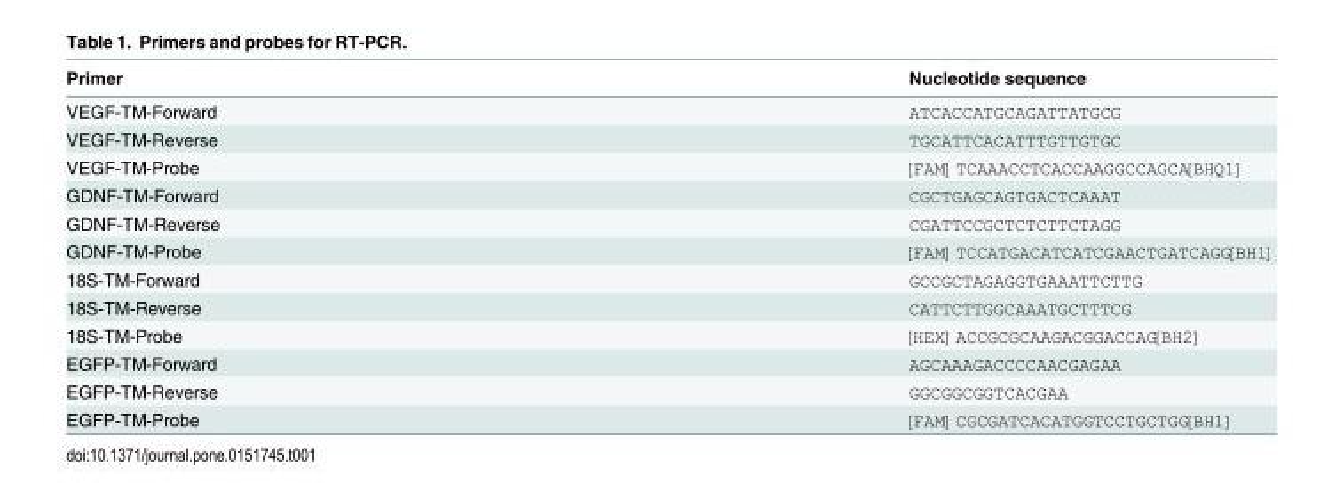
<table><thead><tr><td>Primer</td><td>Nucleotide sequence</td></tr></thead><tbody><tr><td>VEGF-TM-Forward</td><td>ATCACCATGCAGATTATGCG</td></tr><tr><td>VEGF-TM-Reverse</td><td>TGCATTCACATTTGTTGTGC</td></tr><tr><td>VEGF-TM-Probe</td><td>[FAM]TCAAACCTCACCAAGGCCAGCA[BHQ1]</td></tr><tr><td>GDNF-TM-Forward</td><td>CGCTGAGCAGTGACTCAAAT</td></tr><tr><td>GDNF-TM-Reverse</td><td>CGATTCCGCTCTCTTCTAGG</td></tr><tr><td>GDNF-TM-Probe</td><td>[FAM]TCCATGACATCATCGAACTGATCAGG[BH1]</td></tr><tr><td>18S-TM-Forward</td><td>GCCGCTAGAGGTGAAATTCTTG</td></tr><tr><td>18S-TM-Reverse</td><td>CATTCTTGGCAAATGCTTTCG</td></tr><tr><td>18S-TM-Probe</td><td>[HEX]ACCGCGCAAGACGGACCAG[BH2]</td></tr><tr><td>EGFP-TM-Forward</td><td>AGCAAAGACCCCAACGAGAA</td></tr><tr><td>EGFP-TM-Reverse</td><td>GGCGGCGGTCACGAA</td></tr><tr><td>EGFP-TM-Probe</td><td>[FAM]CGCGATCACATGGTCCTGCTGG[BH1]</td></tr></tbody></table>